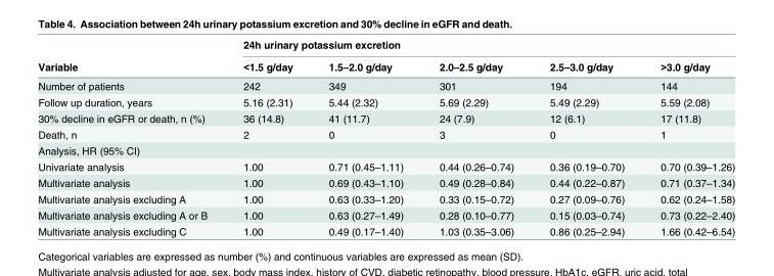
<table><thead><tr><td rowspan="2">Variable</td><td colspan="5">24h urinary potassium excretion</td></tr><tr><td>&lt;1.5 g/day</td><td>1.5–2.0 g/day</td><td>2.0–2.5 g/day</td><td>2.5–3.0 g/day</td><td>&gt;3.0 g/day</td></tr></thead><tbody><tr><td>Number of patients</td><td>242</td><td>349</td><td>301</td><td>194</td><td>144</td></tr><tr><td>Follow up duration, years</td><td>5.16 (2.31)</td><td>5.44 (2.32)</td><td>5.69 (2.29)</td><td>5.49 (2.29)</td><td>5.59 (2.08)</td></tr><tr><td>30% decline in eGFR or death, n (%)</td><td>36 (14.8)</td><td>41 (11.7)</td><td>24 (7.9)</td><td>12 (6.1)</td><td>17 (11.8)</td></tr><tr><td>Death, n</td><td>2</td><td>0</td><td>3</td><td>0</td><td>1</td></tr><tr><td colspan="6">Analysis, HR (95% CI)</td></tr><tr><td>Univariate analysis</td><td>1.00</td><td>0.71 (0.45–1.11)</td><td>0.44 (0.26–0.74)</td><td>0.36 (0.19–0.70)</td><td>0.70 (0.39–1.26)</td></tr><tr><td>Multivariate analysis</td><td>1.00</td><td>0.69 (0.43–1.10)</td><td>0.49 (0.28–0.84)</td><td>0.44 (0.22–0.87)</td><td>0.71 (0.37–1.34)</td></tr><tr><td>Multivariate analysis excluding A</td><td>1.00</td><td>0.63 (0.33–1.20)</td><td>0.33 (0.15–0.72)</td><td>0.27 (0.09–0.76)</td><td>0.62 (0.24–1.58)</td></tr><tr><td>Multivariate analysis excluding A or B</td><td>1.00</td><td>0.63 (0.27–1.49)</td><td>0.28 (0.10–0.77)</td><td>0.15 (0.03–0.74)</td><td>0.73 (0.22–2.40)</td></tr><tr><td>Multivariate analysis excluding C</td><td>1.00</td><td>0.49 (0.17–1.40)</td><td>1.03 (0.35–3.06)</td><td>0.86 (0.25–2.94)</td><td>1.66 (0.42–6.54)</td></tr></tbody></table>